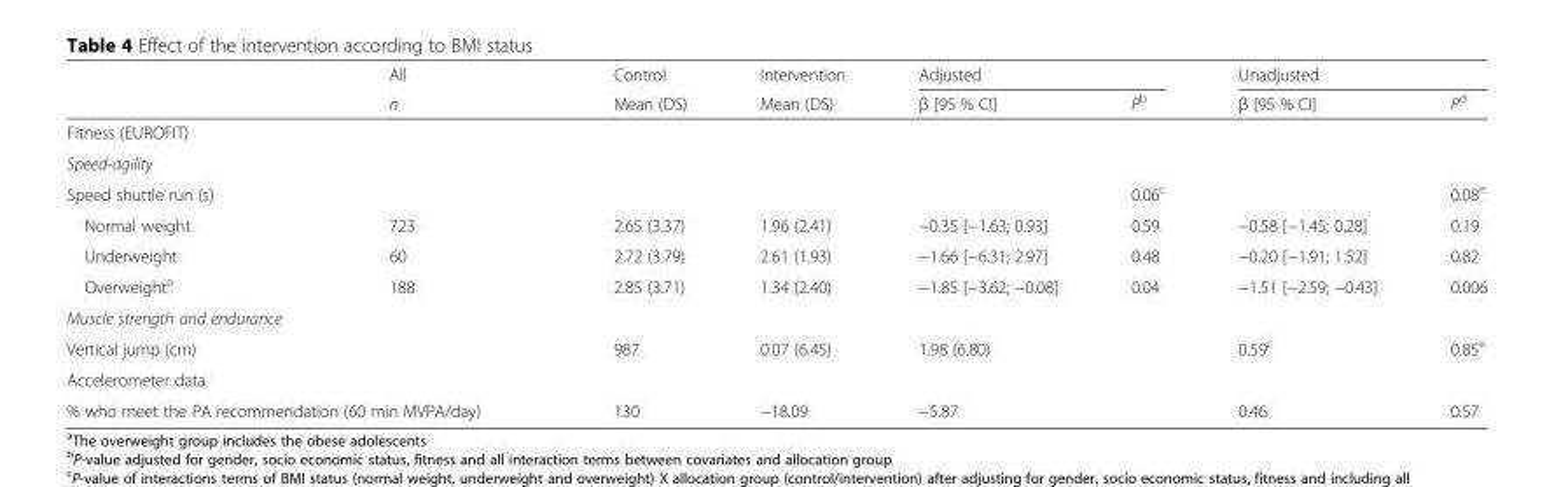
<table><thead><tr><td rowspan="2"></td><td rowspan="2">All n</td><td rowspan="2">Control Mean (DS)</td><td rowspan="2">Intervention Mean (DS)</td><td colspan="2">Adjusted</td><td colspan="2">Unadjusted</td></tr><tr><td>β [95 % CI]</td><td>P<sup>b</sup></td><td>β [95 % CI]</td><td>P<sup>d</sup></td></tr></thead><tbody><tr><td colspan="8">Fitness (EUROFIT)</td></tr><tr><td colspan="8">Speed-agility</td></tr><tr><td colspan="2">Speed shuttle run (s)</td><td></td><td></td><td></td><td>0.06<sup>c</sup></td><td></td><td>0.08<sup>e</sup></td></tr><tr><td>Normal weight</td><td>723</td><td>2.65 (3.37)</td><td>1.96 (2.41)</td><td>−0.35 [−1.63; 0.93]</td><td>0.59</td><td>−0.58 [−1.45; 0.28]</td><td>0.19</td></tr><tr><td>Underweight</td><td>60</td><td>2.72 (3.79)</td><td>2.61 (1.93)</td><td>−1.66 [−6.31; 2.97]</td><td>0.48</td><td>−0.20 [−1.91; 1.52]</td><td>0.82</td></tr><tr><td>Overweight<sup>a</sup></td><td>188</td><td>2.85 (3.71)</td><td>1.34 (2.40)</td><td>−1.85 [−3.62; −0.08]</td><td>0.04</td><td>−1.51 [−2.59; −0.43]</td><td>0.006</td></tr><tr><td colspan="8">Muscle strength and endurance</td></tr><tr><td colspan="2">Vertical jump (cm)</td><td>987</td><td>0.07 (6.45)</td><td>1.98 (6.80)</td><td></td><td>0.59<sup>c</sup></td><td>0.85<sup>e</sup></td></tr><tr><td colspan="8">Accelerometer data</td></tr><tr><td colspan="2">% who meet the PA recommendation (60 min MVPA/day)</td><td>130</td><td>−18.09</td><td>−5.87</td><td></td><td>0.46</td><td>0.57</td></tr></tbody></table>